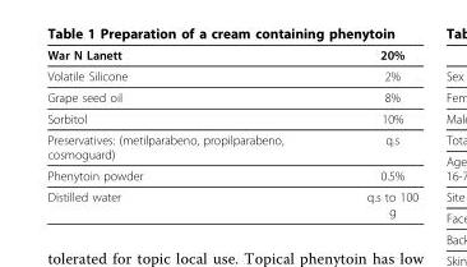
<table><thead><tr><td>War N Lanett</td><td>20%</td></tr></thead><tbody><tr><td>Volatile Silicone</td><td>2%</td></tr><tr><td>Grape seed oil</td><td>8%</td></tr><tr><td>Sorbitol</td><td>10%</td></tr><tr><td>Preservatives: (metilparabeno, propilparabeno, cosmoguard)</td><td>q.s</td></tr><tr><td>Phenytoin powder</td><td>0.5%</td></tr><tr><td>Distilled water</td><td>q.s to 100 g</td></tr></tbody></table>